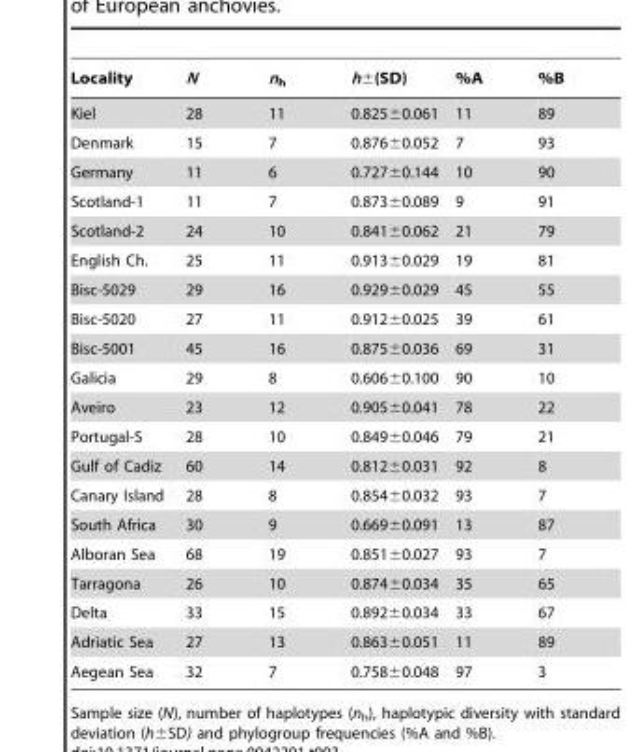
<table><thead><tr><td>Locality</td><td>N</td><td>n<sub>h</sub></td><td>h±(SD)</td><td>%A</td><td>%B</td></tr></thead><tbody><tr><td>Kiel</td><td>28</td><td>11</td><td>0.825±0.061</td><td>11</td><td>89</td></tr><tr><td>Denmark</td><td>15</td><td>7</td><td>0.876±0.052</td><td>7</td><td>93</td></tr><tr><td>Germany</td><td>11</td><td>6</td><td>0.727±0.144</td><td>10</td><td>90</td></tr><tr><td>Scotland-1</td><td>11</td><td>7</td><td>0.873±0.089</td><td>9</td><td>91</td></tr><tr><td>Scotland-2</td><td>24</td><td>10</td><td>0.841±0.062</td><td>21</td><td>79</td></tr><tr><td>English Ch.</td><td>25</td><td>11</td><td>0.913±0.029</td><td>19</td><td>81</td></tr><tr><td>Bisc-5029</td><td>29</td><td>16</td><td>0.929±0.029</td><td>45</td><td>55</td></tr><tr><td>Bisc-5020</td><td>27</td><td>11</td><td>0.912±0.025</td><td>39</td><td>61</td></tr><tr><td>Bisc-5001</td><td>45</td><td>16</td><td>0.875±0.036</td><td>69</td><td>31</td></tr><tr><td>Galicia</td><td>29</td><td>8</td><td>0.606±0.100</td><td>90</td><td>10</td></tr><tr><td>Aveiro</td><td>23</td><td>12</td><td>0.905±0.041</td><td>78</td><td>22</td></tr><tr><td>Portugal-S</td><td>28</td><td>10</td><td>0.849±0.046</td><td>79</td><td>21</td></tr><tr><td>Gulf of Cadiz</td><td>60</td><td>14</td><td>0.812±0.031</td><td>92</td><td>8</td></tr><tr><td>Canary Island</td><td>28</td><td>8</td><td>0.854±0.032</td><td>93</td><td>7</td></tr><tr><td>South Africa</td><td>30</td><td>9</td><td>0.669±0.091</td><td>13</td><td>87</td></tr><tr><td>Alboran Sea</td><td>68</td><td>19</td><td>0.851±0.027</td><td>93</td><td>7</td></tr><tr><td>Tarragona</td><td>26</td><td>10</td><td>0.874±0.034</td><td>35</td><td>65</td></tr><tr><td>Delta</td><td>33</td><td>15</td><td>0.892±0.034</td><td>33</td><td>67</td></tr><tr><td>Adriatic Sea</td><td>27</td><td>13</td><td>0.863±0.051</td><td>11</td><td>89</td></tr><tr><td>Aegean Sea</td><td>32</td><td>7</td><td>0.758±0.048</td><td>97</td><td>3</td></tr></tbody></table>